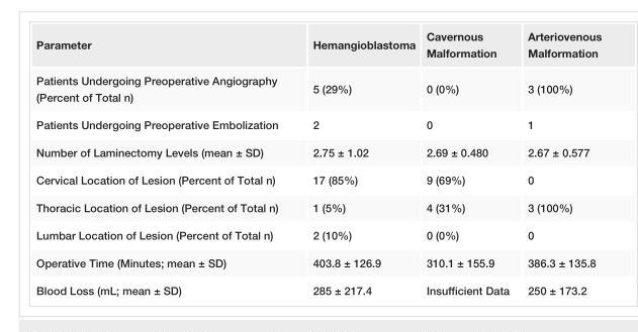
<table><tbody><tr><td>Parameter</td><td>Hemangioblastoma</td><td>Cavernous Malformation</td><td>Arteriovenous Malformation</td></tr><tr><td>Patients Undergoing Preoperative Angiography (Percent of Total n)</td><td>5 (29%)</td><td>0 (0%)</td><td>3 (100%)</td></tr><tr><td>Patients Undergoing Preoperative Embolization</td><td>2</td><td>0</td><td>1</td></tr><tr><td>Number of Laminectomy Levels (mean ± SD)</td><td>2.75 ± 1.02</td><td>2.69 ± 0.480</td><td>2.67 ± 0.577</td></tr><tr><td>Cervical Location of Lesion (Percent of Total n)</td><td>17 (85%)</td><td>9 (69%)</td><td>0</td></tr><tr><td>Thoracic Location of Lesion (Percent of Total n)</td><td>1 (5%)</td><td>4 (31%)</td><td>3 (100%)</td></tr><tr><td>Lumbar Location of Lesion (Percent of Total n)</td><td>2 (10%)</td><td>0 (0%)</td><td>0</td></tr><tr><td>Operative Time (Minutes; mean ± SD)</td><td>403.8 ± 126.9</td><td>310.1 ± 155.9</td><td>386.3 ± 135.8</td></tr><tr><td>Blood Loss (mL; mean ± SD)</td><td>285 ± 217.4</td><td>Insufficient Data</td><td>250 ± 173.2</td></tr></tbody></table>